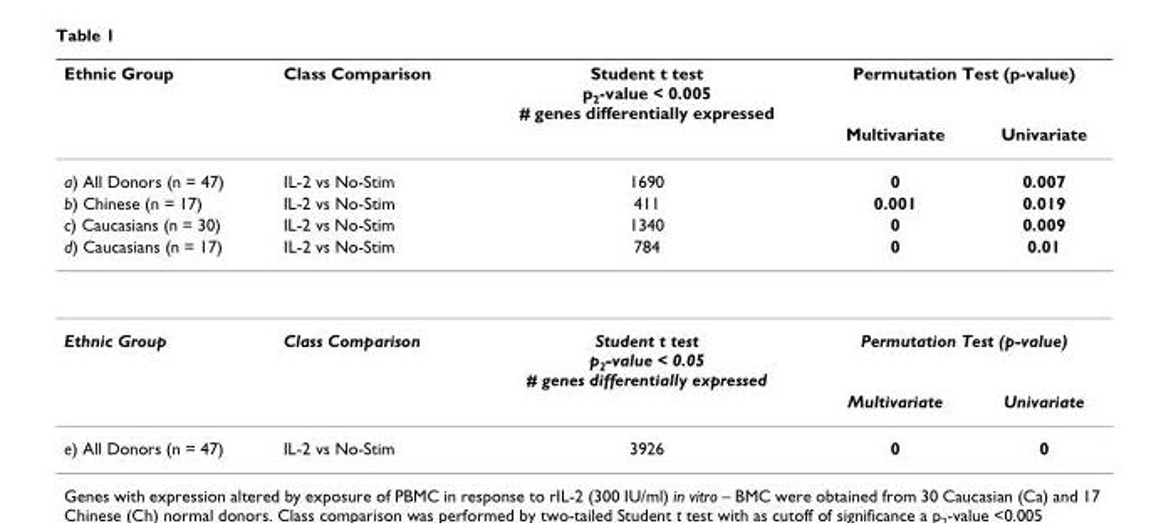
<table><thead><tr><td rowspan="2">Ethnic Group</td><td rowspan="2">Class Comparison</td><td rowspan="2">Student t test p2-value &lt; 0.005 # genes differentially expressed</td><td colspan="2">Permutation Test (p-value)</td></tr><tr><td>Multivariate</td><td>Univariate</td></tr></thead><tbody><tr><td>a) All Donors (n = 47)</td><td>IL-2 vs No-Stim</td><td>1690</td><td>0</td><td>0.007</td></tr><tr><td>b) Chinese (n = 17)</td><td>IL-2 vs No-Stim</td><td>411</td><td>0.001</td><td>0.019</td></tr><tr><td>c) Caucasians (n = 30)</td><td>IL-2 vs No-Stim</td><td>1340</td><td>0</td><td>0.009</td></tr><tr><td>d) Caucasians (n = 17)</td><td>IL-2 vs No-Stim</td><td>784</td><td>0</td><td>0.01</td></tr><tr><td rowspan="2">Ethnic Group</td><td>Class Comparison</td><td>Student t test p2-value &lt; 0.05 # genes differentially expressed</td><td colspan="2">Permutation Test (p-value)</td></tr><tr><td></td><td></td><td>Multivariate</td><td>Univariate</td></tr><tr><td>e) All Donors (n = 47)</td><td>IL-2 vs No-Stim</td><td>3926</td><td>0</td><td>0</td></tr></tbody></table>